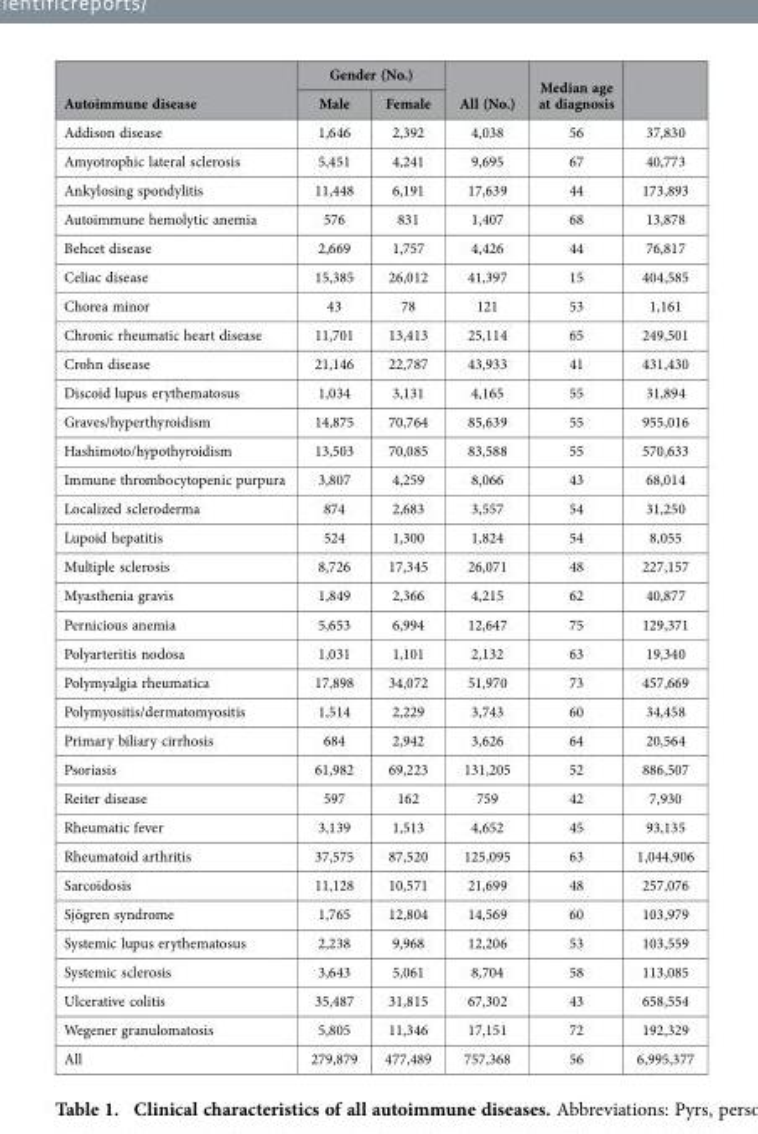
<table><thead><tr><td rowspan="2">Autoimmune disease</td><td colspan="2">Gender (No.)</td><td rowspan="2">All (No.)</td><td rowspan="2">Median age at diagnosis</td><td rowspan="2"></td></tr><tr><td>Male</td><td>Female</td></tr></thead><tbody><tr><td>Addison disease</td><td>1,646</td><td>2,392</td><td>4,038</td><td>56</td><td>37,830</td></tr><tr><td>Amyotrophic lateral sclerosis</td><td>5,451</td><td>4,241</td><td>9,695</td><td>67</td><td>40,773</td></tr><tr><td>Ankylosing spondylitis</td><td>11,448</td><td>6,191</td><td>17,639</td><td>44</td><td>173,893</td></tr><tr><td>Autoimmune hemolytic anemia</td><td>576</td><td>831</td><td>1,407</td><td>68</td><td>13,878</td></tr><tr><td>Behcet disease</td><td>2,669</td><td>1,757</td><td>4,426</td><td>44</td><td>76,817</td></tr><tr><td>Celiac disease</td><td>15,385</td><td>26,012</td><td>41,397</td><td>15</td><td>404,585</td></tr><tr><td>Chorea minor</td><td>43</td><td>78</td><td>121</td><td>53</td><td>1,161</td></tr><tr><td>Chronic rheumatic heart disease</td><td>11,701</td><td>13,413</td><td>25,114</td><td>65</td><td>249,501</td></tr><tr><td>Crohn disease</td><td>21,146</td><td>22,787</td><td>43,933</td><td>41</td><td>431,430</td></tr><tr><td>Discoid lupus erythematosus</td><td>1,034</td><td>3,131</td><td>4,165</td><td>55</td><td>31,894</td></tr><tr><td>Graves/hyperthyroidism</td><td>14,875</td><td>70,764</td><td>85,639</td><td>55</td><td>955,016</td></tr><tr><td>Hashimoto/hypothyroidism</td><td>13,503</td><td>70,085</td><td>83,588</td><td>55</td><td>570,633</td></tr><tr><td>Immune thrombocytopenic purpura</td><td>3,807</td><td>4,259</td><td>8,066</td><td>43</td><td>68,014</td></tr><tr><td>Localized scleroderma</td><td>874</td><td>2,683</td><td>3,557</td><td>54</td><td>31,250</td></tr><tr><td>Lupoid hepatitis</td><td>524</td><td>1,300</td><td>1,824</td><td>54</td><td>8,055</td></tr><tr><td>Multiple sclerosis</td><td>8,726</td><td>17,345</td><td>26,071</td><td>48</td><td>227,157</td></tr><tr><td>Myasthenia gravis</td><td>1,849</td><td>2,366</td><td>4,215</td><td>62</td><td>40,877</td></tr><tr><td>Pernicious anemia</td><td>5,653</td><td>6,994</td><td>12,647</td><td>75</td><td>129,371</td></tr><tr><td>Polyarteritis nodosa</td><td>1,031</td><td>1,101</td><td>2,132</td><td>63</td><td>19,340</td></tr><tr><td>Polymyalgia rheumatica</td><td>17,898</td><td>34,072</td><td>51,970</td><td>73</td><td>457,669</td></tr><tr><td>Polymyositis/dermatomyositis</td><td>1,514</td><td>2,229</td><td>3,743</td><td>60</td><td>34,458</td></tr><tr><td>Primary biliary cirrhosis</td><td>684</td><td>2,942</td><td>3,626</td><td>64</td><td>20,564</td></tr><tr><td>Psoriasis</td><td>61,982</td><td>69,223</td><td>131,205</td><td>52</td><td>886,507</td></tr><tr><td>Reiter disease</td><td>597</td><td>162</td><td>759</td><td>42</td><td>7,930</td></tr><tr><td>Rheumatic fever</td><td>3,139</td><td>1,513</td><td>4,652</td><td>45</td><td>93,135</td></tr><tr><td>Rheumatoid arthritis</td><td>37,575</td><td>87,520</td><td>125,095</td><td>63</td><td>1,044,906</td></tr><tr><td>Sarcoidosis</td><td>11,128</td><td>10,571</td><td>21,699</td><td>48</td><td>257,076</td></tr><tr><td>Sjögren syndrome</td><td>1,765</td><td>12,804</td><td>14,569</td><td>60</td><td>103,979</td></tr><tr><td>Systemic lupus erythematosus</td><td>2,238</td><td>9,968</td><td>12,206</td><td>53</td><td>103,559</td></tr><tr><td>Systemic sclerosis</td><td>3,643</td><td>5,061</td><td>8,704</td><td>58</td><td>113,085</td></tr><tr><td>Ulcerative colitis</td><td>35,487</td><td>31,815</td><td>67,302</td><td>43</td><td>658,554</td></tr><tr><td>Wegener granulomatosis</td><td>5,805</td><td>11,346</td><td>17,151</td><td>72</td><td>192,329</td></tr><tr><td>All</td><td>279,879</td><td>477,489</td><td>757,368</td><td>56</td><td>6,995,377</td></tr></tbody></table>